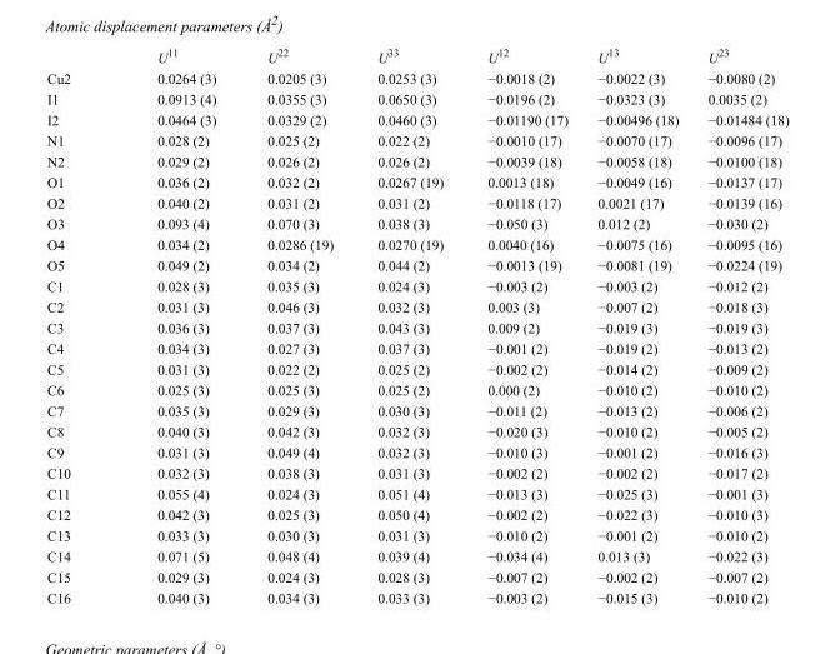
<table><thead><tr><td></td><td>U<sup>11</sup></td><td>U<sup>22</sup></td><td>U<sup>33</sup></td><td>U<sup>12</sup></td><td>U<sup>13</sup></td><td>U<sup>23</sup></td></tr></thead><tbody><tr><td>Cu2</td><td>0.0264 (3)</td><td>0.0205 (3)</td><td>0.0253 (3)</td><td>−0.0018 (2)</td><td>−0.0022 (3)</td><td>−0.0080 (2)</td></tr><tr><td>I1</td><td>0.0913 (4)</td><td>0.0355 (3)</td><td>0.0650 (3)</td><td>−0.0196 (2)</td><td>−0.0323 (3)</td><td>0.0035 (2)</td></tr><tr><td>I2</td><td>0.0464 (3)</td><td>0.0329 (2)</td><td>0.0460 (3)</td><td>−0.01190 (17)</td><td>−0.00496 (18)</td><td>−0.01484 (18)</td></tr><tr><td>N1</td><td>0.028 (2)</td><td>0.025 (2)</td><td>0.022 (2)</td><td>−0.0010 (17)</td><td>−0.0070 (17)</td><td>−0.0096 (17)</td></tr><tr><td>N2</td><td>0.029 (2)</td><td>0.026 (2)</td><td>0.026 (2)</td><td>−0.0039 (18)</td><td>−0.0058 (18)</td><td>−0.0100 (18)</td></tr><tr><td>O1</td><td>0.036 (2)</td><td>0.032 (2)</td><td>0.0267 (19)</td><td>0.0013 (18)</td><td>−0.0049 (16)</td><td>−0.0137 (17)</td></tr><tr><td>O2</td><td>0.040 (2)</td><td>0.031 (2)</td><td>0.031 (2)</td><td>−0.0118 (17)</td><td>0.0021 (17)</td><td>−0.0139 (16)</td></tr><tr><td>O3</td><td>0.093 (4)</td><td>0.070 (3)</td><td>0.038 (3)</td><td>−0.050 (3)</td><td>0.012 (2)</td><td>−0.030 (2)</td></tr><tr><td>O4</td><td>0.034 (2)</td><td>0.0286 (19)</td><td>0.0270 (19)</td><td>0.0040 (16)</td><td>−0.0075 (16)</td><td>−0.0095 (16)</td></tr><tr><td>O5</td><td>0.049 (2)</td><td>0.034 (2)</td><td>0.044 (2)</td><td>−0.0013 (19)</td><td>−0.0081 (19)</td><td>−0.0224 (19)</td></tr><tr><td>C1</td><td>0.028 (3)</td><td>0.035 (3)</td><td>0.024 (3)</td><td>−0.003 (2)</td><td>−0.003 (2)</td><td>−0.012 (2)</td></tr><tr><td>C2</td><td>0.031 (3)</td><td>0.046 (3)</td><td>0.032 (3)</td><td>0.003 (3)</td><td>−0.007 (2)</td><td>−0.018 (3)</td></tr><tr><td>C3</td><td>0.036 (3)</td><td>0.037 (3)</td><td>0.043 (3)</td><td>0.009 (2)</td><td>−0.019 (3)</td><td>−0.019 (3)</td></tr><tr><td>C4</td><td>0.034 (3)</td><td>0.027 (3)</td><td>0.037 (3)</td><td>−0.001 (2)</td><td>−0.019 (2)</td><td>−0.013 (2)</td></tr><tr><td>C5</td><td>0.031 (3)</td><td>0.022 (2)</td><td>0.025 (2)</td><td>−0.002 (2)</td><td>−0.014 (2)</td><td>−0.009 (2)</td></tr><tr><td>C6</td><td>0.025 (3)</td><td>0.025 (3)</td><td>0.025 (2)</td><td>0.000 (2)</td><td>−0.010 (2)</td><td>−0.010 (2)</td></tr><tr><td>C7</td><td>0.035 (3)</td><td>0.029 (3)</td><td>0.030 (3)</td><td>−0.011 (2)</td><td>−0.013 (2)</td><td>−0.006 (2)</td></tr><tr><td>C8</td><td>0.040 (3)</td><td>0.042 (3)</td><td>0.032 (3)</td><td>−0.020 (3)</td><td>−0.010 (2)</td><td>−0.005 (2)</td></tr><tr><td>C9</td><td>0.031 (3)</td><td>0.049 (4)</td><td>0.032 (3)</td><td>−0.010 (3)</td><td>−0.001 (2)</td><td>−0.016 (3)</td></tr><tr><td>C10</td><td>0.032 (3)</td><td>0.038 (3)</td><td>0.031 (3)</td><td>−0.002 (2)</td><td>−0.002 (2)</td><td>−0.017 (2)</td></tr><tr><td>C11</td><td>0.055 (4)</td><td>0.024 (3)</td><td>0.051 (4)</td><td>−0.013 (3)</td><td>−0.025 (3)</td><td>−0.001 (3)</td></tr><tr><td>C12</td><td>0.042 (3)</td><td>0.025 (3)</td><td>0.050 (4)</td><td>−0.002 (2)</td><td>−0.022 (3)</td><td>−0.010 (3)</td></tr><tr><td>C13</td><td>0.033 (3)</td><td>0.030 (3)</td><td>0.031 (3)</td><td>−0.010 (2)</td><td>−0.001 (2)</td><td>−0.010 (2)</td></tr><tr><td>C14</td><td>0.071 (5)</td><td>0.048 (4)</td><td>0.039 (4)</td><td>−0.034 (4)</td><td>0.013 (3)</td><td>−0.022 (3)</td></tr><tr><td>C15</td><td>0.029 (3)</td><td>0.024 (3)</td><td>0.028 (3)</td><td>−0.007 (2)</td><td>−0.002 (2)</td><td>−0.007 (2)</td></tr><tr><td>C16</td><td>0.040 (3)</td><td>0.034 (3)</td><td>0.033 (3)</td><td>−0.003 (2)</td><td>−0.015 (3)</td><td>−0.010 (2)</td></tr></tbody></table>